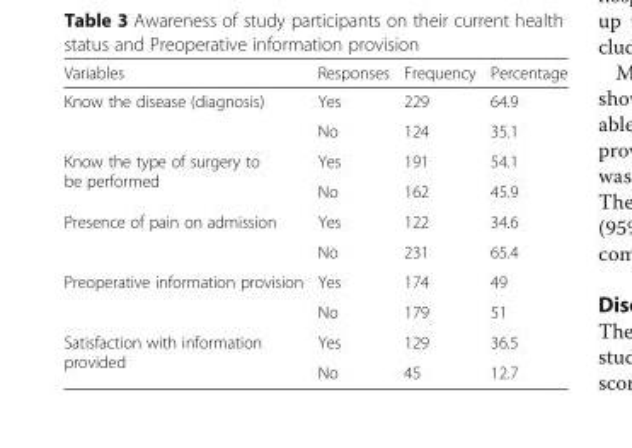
<table><thead><tr><td>Variables</td><td>Responses</td><td>Frequency</td><td>Percentage</td></tr></thead><tbody><tr><td rowspan="2">Know the disease (diagnosis)</td><td>Yes</td><td>229</td><td>64.9</td></tr><tr><td>No</td><td>124</td><td>35.1</td></tr><tr><td rowspan="2">Know the type of surgery to be performed</td><td>Yes</td><td>191</td><td>54.1</td></tr><tr><td>No</td><td>162</td><td>45.9</td></tr><tr><td rowspan="2">Presence of pain on admission</td><td>Yes</td><td>122</td><td>34.6</td></tr><tr><td>No</td><td>231</td><td>65.4</td></tr><tr><td rowspan="2">Preoperative information provision</td><td>Yes</td><td>174</td><td>49</td></tr><tr><td>No</td><td>179</td><td>51</td></tr><tr><td rowspan="2">Satisfaction with information provided</td><td>Yes</td><td>129</td><td>36.5</td></tr><tr><td>No</td><td>45</td><td>12.7</td></tr></tbody></table>